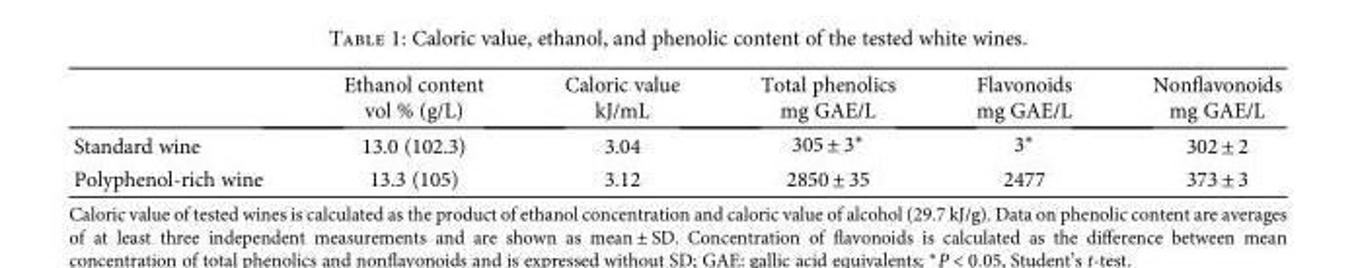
<table><thead><tr><td rowspan="2"></td><td rowspan="2">Ethanol content vol % (g/L)</td><td rowspan="2">Caloric value kJ/mL</td><td rowspan="2">Total phenolics mg GAE/L</td><td rowspan="2">Flavonoids mg GAE/L</td><td rowspan="2">Nonflavonoids mg GAE/L</td></tr><tr></tr></thead><tbody><tr><td>Standard wine</td><td>13.0 (102.3)</td><td>3.04</td><td>305 ± 3∗</td><td>3∗</td><td>302 ± 2</td></tr><tr><td>Polyphenol-rich wine</td><td>13.3 (105)</td><td>3.12</td><td>2850 ± 35</td><td>2477</td><td>373 ± 3</td></tr></tbody></table>